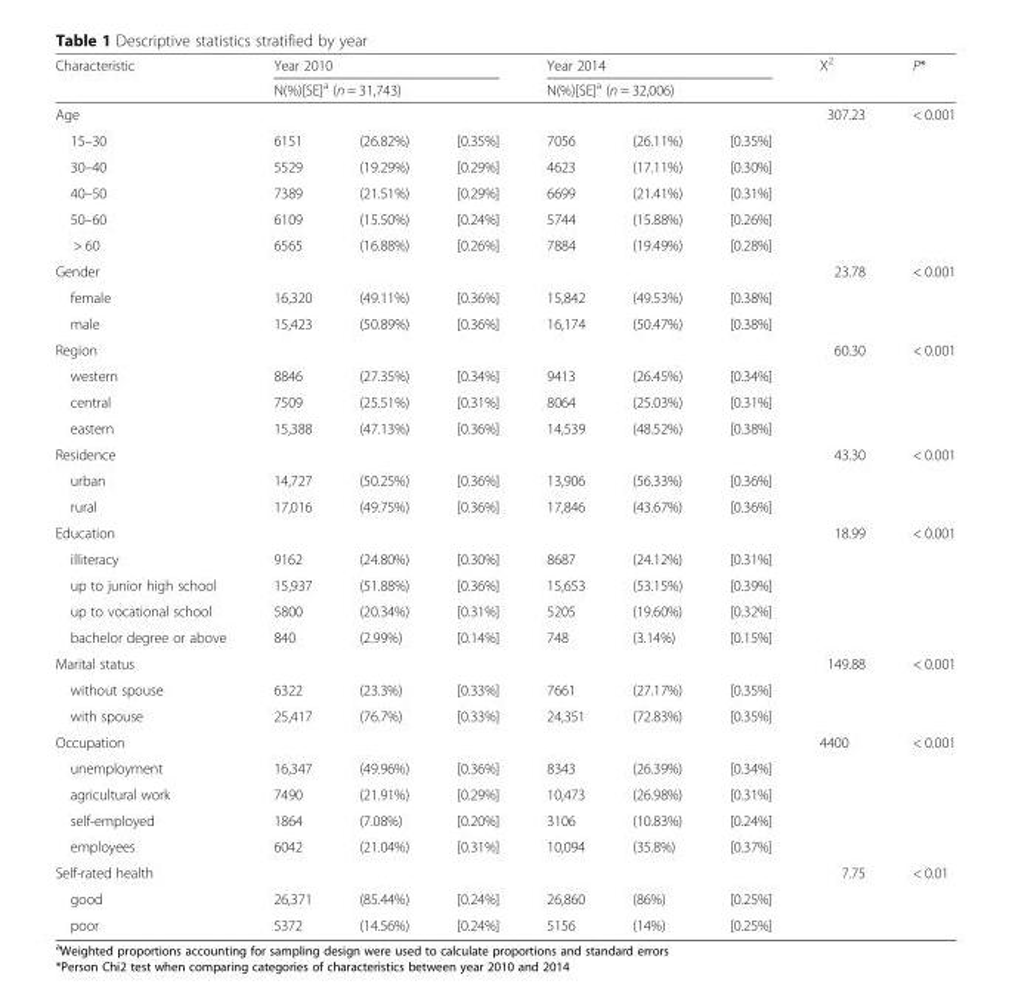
<table><thead><tr><td rowspan="4">Characteristic Age 15–30</td><td rowspan="2" colspan="3">Year 2010 N(%)[SE]<sup>a</sup> (n = 31,743)</td><td rowspan="2" colspan="3">Year 2014 N(%)[SE]<sup>a</sup> (n = 32,006)</td><td rowspan="4">X<sup>2</sup> 307.23</td><td rowspan="4">P* &lt; 0.001</td></tr><tr></tr><tr><td colspan="6"></td></tr><tr><td>6151</td><td>(26.82%)</td><td>[0.35%]</td><td>7056</td><td>(26.11%)</td><td>[0.35%]</td></tr></thead><tbody><tr><td>30–40</td><td>5529</td><td>(19.29%)</td><td>[0.29%]</td><td>4623</td><td>(17.11%)</td><td>[0.30%]</td><td></td><td></td></tr><tr><td>40–50</td><td>7389</td><td>(21.51%)</td><td>[0.29%]</td><td>6699</td><td>(21.41%)</td><td>[0.31%]</td><td></td><td></td></tr><tr><td>50–60</td><td>6109</td><td>(15.50%)</td><td>[0.24%]</td><td>5744</td><td>(15.88%)</td><td>[0.26%]</td><td></td><td></td></tr><tr><td>&gt; 60</td><td>6565</td><td>(16.88%)</td><td>[0.26%]</td><td>7884</td><td>(19.49%)</td><td>[0.28%]</td><td></td><td></td></tr><tr><td>Gender</td><td colspan="6"></td><td>23.78</td><td>&lt; 0.001</td></tr><tr><td>female</td><td>16,320</td><td>(49.11%)</td><td>[0.36%]</td><td>15,842</td><td>(49.53%)</td><td>[0.38%]</td><td></td><td></td></tr><tr><td>male</td><td>15,423</td><td>(50.89%)</td><td>[0.36%]</td><td>16,174</td><td>(50.47%)</td><td>[0.38%]</td><td></td><td></td></tr><tr><td>Region</td><td colspan="6"></td><td>60.30</td><td>&lt; 0.001</td></tr><tr><td>western</td><td>8846</td><td>(27.35%)</td><td>[0.34%]</td><td>9413</td><td>(26.45%)</td><td>[0.34%]</td><td></td><td></td></tr><tr><td>central</td><td>7509</td><td>(25.51%)</td><td>[0.31%]</td><td>8064</td><td>(25.03%)</td><td>[0.31%]</td><td></td><td></td></tr><tr><td>eastern</td><td>15,388</td><td>(47.13%)</td><td>[0.36%]</td><td>14,539</td><td>(48.52%)</td><td>[0.38%]</td><td></td><td></td></tr><tr><td>Residence</td><td colspan="6"></td><td>43.30</td><td>&lt; 0.001</td></tr><tr><td>urban</td><td>14,727</td><td>(50.25%)</td><td>[0.36%]</td><td>13,906</td><td>(56.33%)</td><td>[0.36%]</td><td></td><td></td></tr><tr><td>rural</td><td>17,016</td><td>(49.75%)</td><td>[0.36%]</td><td>17,846</td><td>(43.67%)</td><td>[0.36%]</td><td></td><td></td></tr><tr><td>Education</td><td colspan="6"></td><td>18.99</td><td>&lt; 0.001</td></tr><tr><td>illiteracy</td><td>9162</td><td>(24.80%)</td><td>[0.30%]</td><td>8687</td><td>(24.12%)</td><td>[0.31%]</td><td></td><td></td></tr><tr><td>up to junior high school</td><td>15,937</td><td>(51.88%)</td><td>[0.36%]</td><td>15,653</td><td>(53.15%)</td><td>[0.39%]</td><td></td><td></td></tr><tr><td>up to vocational school</td><td>5800</td><td>(20.34%)</td><td>[0.31%]</td><td>5205</td><td>(19.60%)</td><td>[0.32%]</td><td></td><td></td></tr><tr><td>bachelor degree or above</td><td>840</td><td>(2.99%)</td><td>[0.14%]</td><td>748</td><td>(3.14%)</td><td>[0.15%]</td><td></td><td></td></tr><tr><td>Marital status</td><td colspan="6"></td><td>149.88</td><td>&lt; 0.001</td></tr><tr><td>without spouse</td><td>6322</td><td>(23.3%)</td><td>[0.33%]</td><td>7661</td><td>(27.17%)</td><td>[0.35%]</td><td></td><td></td></tr><tr><td>with spouse</td><td>25,417</td><td>(76.7%)</td><td>[0.33%]</td><td>24,351</td><td>(72.83%)</td><td>[0.35%]</td><td></td><td></td></tr><tr><td>Occupation</td><td colspan="6"></td><td>4400</td><td>&lt; 0.001</td></tr><tr><td>unemployment</td><td>16,347</td><td>(49.96%)</td><td>[0.36%]</td><td>8343</td><td>(26.39%)</td><td>[0.34%]</td><td></td><td></td></tr><tr><td>agricultural work</td><td>7490</td><td>(21.91%)</td><td>[0.29%]</td><td>10,473</td><td>(26.98%)</td><td>[0.31%]</td><td></td><td></td></tr><tr><td>self-employed</td><td>1864</td><td>(7.08%)</td><td>[0.20%]</td><td>3106</td><td>(10.83%)</td><td>[0.24%]</td><td></td><td></td></tr><tr><td>employees</td><td>6042</td><td>(21.04%)</td><td>[0.31%]</td><td>10,094</td><td>(35.8%)</td><td>[0.37%]</td><td></td><td></td></tr><tr><td>Self-rated health</td><td colspan="6"></td><td>7.75</td><td>&lt; 0.01</td></tr><tr><td>good</td><td>26,371</td><td>(85.44%)</td><td>[0.24%]</td><td>26,860</td><td>(86%)</td><td>[0.25%]</td><td></td><td></td></tr><tr><td>poor</td><td>5372</td><td>(14.56%)</td><td>[0.24%]</td><td>5156</td><td>(14%)</td><td>[0.25%]</td><td></td><td></td></tr></tbody></table>